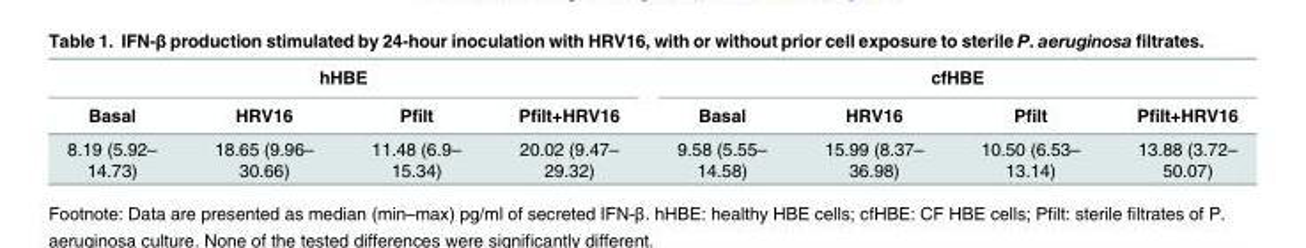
<table><thead><tr><td colspan="4">hHBE</td><td colspan="4">cfHBE</td></tr><tr><td>Basal</td><td>HRV16</td><td>Pfilt</td><td>Pfilt+HRV16</td><td>Basal</td><td>HRV16</td><td>Pfilt</td><td>Pfilt+HRV16</td></tr></thead><tbody><tr><td>8.19 (5.92– 14.73)</td><td>18.65 (9.96– 30.66)</td><td>11.48 (6.9– 15.34)</td><td>20.02 (9.47– 29.32)</td><td>9.58 (5.55– 14.58)</td><td>15.99 (8.37– 36.98)</td><td>10.50 (6.53– 13.14)</td><td>13.88 (3.72– 50.07)</td></tr></tbody></table>